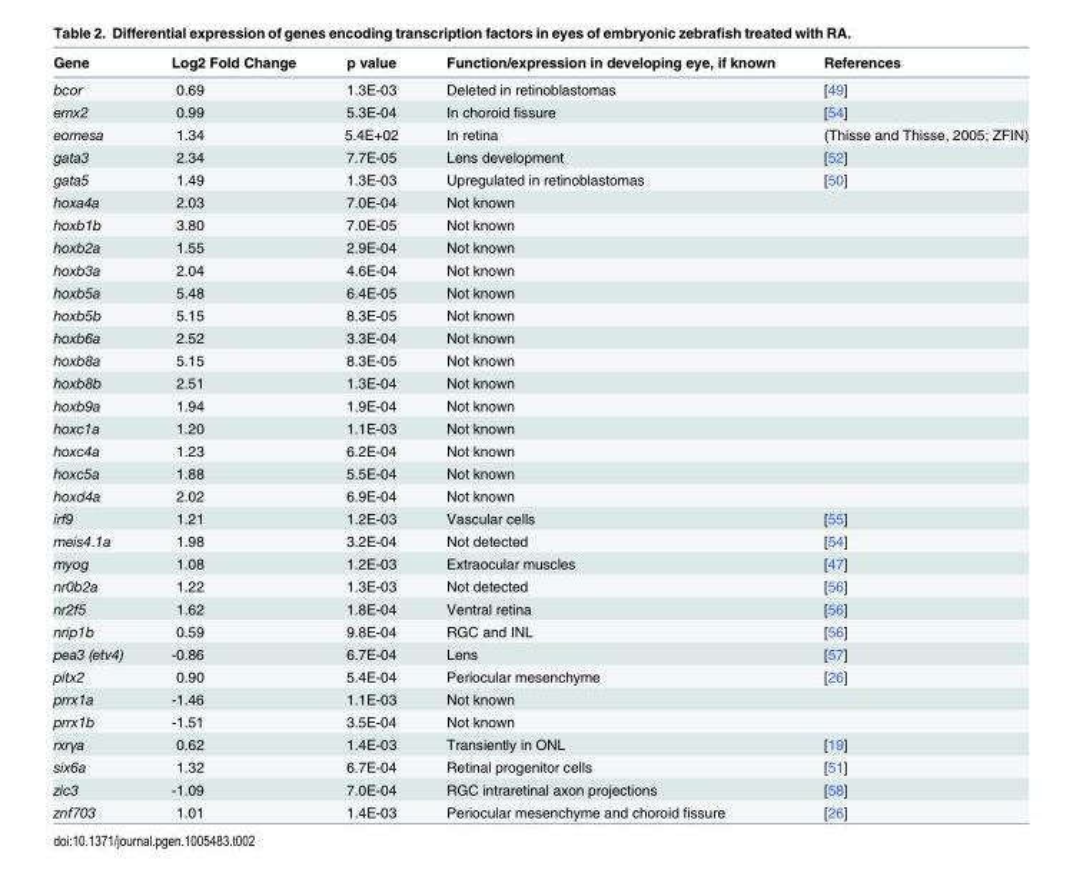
<table><thead><tr><td>Gene</td><td>Log2 Fold Change</td><td>p value</td><td>Function/expression in developing eye, if known</td><td>References</td></tr></thead><tbody><tr><td>bcor</td><td>0.69</td><td>1.3E-03</td><td>Deleted in retinoblastomas</td><td>[49]</td></tr><tr><td>emx2</td><td>0.99</td><td>5.3E-04</td><td>In choroid fissure</td><td>[54]</td></tr><tr><td>eomesa</td><td>1.34</td><td>5.4E+02</td><td>In retina</td><td>(Thisse and Thisse, 2005; ZFIN)</td></tr><tr><td>gata3</td><td>2.34</td><td>7.7E-05</td><td>Lens development</td><td>[52]</td></tr><tr><td>gata5</td><td>1.49</td><td>1.3E-03</td><td>Upregulated in retinoblastomas</td><td>[50]</td></tr><tr><td>hoxa4a</td><td>2.03</td><td>7.0E-04</td><td>Not known</td><td></td></tr><tr><td>hoxb1b</td><td>3.80</td><td>7.0E-05</td><td>Not known</td><td></td></tr><tr><td>hoxb2a</td><td>1.55</td><td>2.9E-04</td><td>Not known</td><td></td></tr><tr><td>hoxb3a</td><td>2.04</td><td>4.6E-04</td><td>Not known</td><td></td></tr><tr><td>hoxb5a</td><td>5.48</td><td>6.4E-05</td><td>Not known</td><td></td></tr><tr><td>hoxb5b</td><td>5.15</td><td>8.3E-05</td><td>Not known</td><td></td></tr><tr><td>hoxb6a</td><td>2.52</td><td>3.3E-04</td><td>Not known</td><td></td></tr><tr><td>hoxb8a</td><td>5.15</td><td>8.3E-05</td><td>Not known</td><td></td></tr><tr><td>hoxb8b</td><td>2.51</td><td>1.3E-04</td><td>Not known</td><td></td></tr><tr><td>hoxb9a</td><td>1.94</td><td>1.9E-04</td><td>Not known</td><td></td></tr><tr><td>hoxc1a</td><td>1.20</td><td>1.1E-03</td><td>Not known</td><td></td></tr><tr><td>hoxc4a</td><td>1.23</td><td>6.2E-04</td><td>Not known</td><td></td></tr><tr><td>hoxc5a</td><td>1.88</td><td>5.5E-04</td><td>Not known</td><td></td></tr><tr><td>hoxd4a</td><td>2.02</td><td>6.9E-04</td><td>Not known</td><td></td></tr><tr><td>irf9</td><td>1.21</td><td>1.2E-03</td><td>Vascular cells</td><td>[55]</td></tr><tr><td>meis4.1a</td><td>1.98</td><td>3.2E-04</td><td>Not detected</td><td>[54]</td></tr><tr><td>myog</td><td>1.08</td><td>1.2E-03</td><td>Extraocular muscles</td><td>[47]</td></tr><tr><td>nr0b2a</td><td>1.22</td><td>1.3E-03</td><td>Not detected</td><td>[56]</td></tr><tr><td>nr2f5</td><td>1.62</td><td>1.8E-04</td><td>Ventral retina</td><td>[56]</td></tr><tr><td>nrip1b</td><td>0.59</td><td>9.8E-04</td><td>RGC and INL</td><td>[56]</td></tr><tr><td>pea3 (etv4)</td><td>-0.86</td><td>6.7E-04</td><td>Lens</td><td>[57]</td></tr><tr><td>pitx2</td><td>0.90</td><td>5.4E-04</td><td>Periocular mesenchyme</td><td>[26]</td></tr><tr><td>prrx1a</td><td>-1.46</td><td>1.1E-03</td><td>Not known</td><td></td></tr><tr><td>prrx1b</td><td>-1.51</td><td>3.5E-04</td><td>Not known</td><td></td></tr><tr><td>rxrγa</td><td>0.62</td><td>1.4E-03</td><td>Transiently in ONL</td><td>[19]</td></tr><tr><td>six6a</td><td>1.32</td><td>6.7E-04</td><td>Retinal progenitor cells</td><td>[51]</td></tr><tr><td>zic3</td><td>-1.09</td><td>7.0E-04</td><td>RGC intraretinal axon projections</td><td>[58]</td></tr><tr><td>znf703</td><td>1.01</td><td>1.4E-03</td><td>Periocular mesenchyme and choroid fissure</td><td>[26]</td></tr></tbody></table>